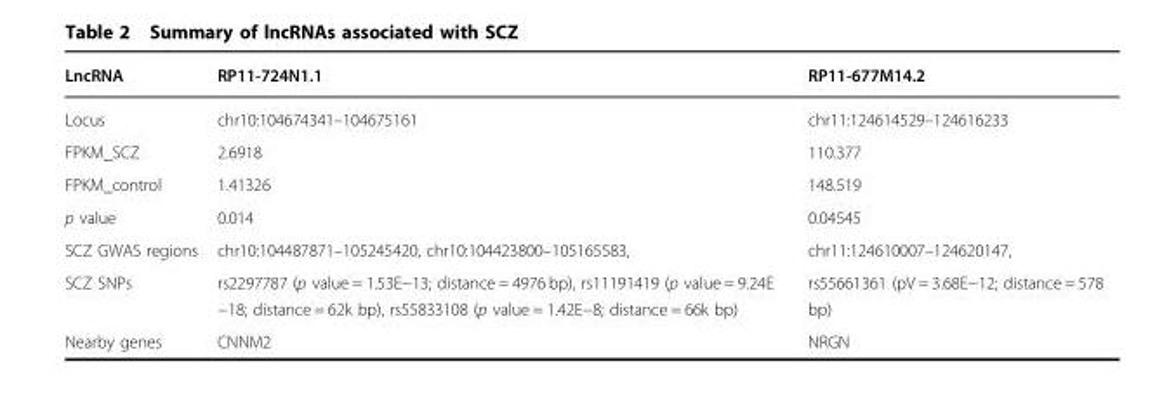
<table><thead><tr><td>LncRNA</td><td>RP11-724N1.1</td><td>RP11-677M14.2</td></tr></thead><tbody><tr><td>Locus</td><td>chr10:104674341–104675161</td><td>chr11:124614529–124616233</td></tr><tr><td>FPKM_SCZ</td><td>2.6918</td><td>110.377</td></tr><tr><td>FPKM_control</td><td>1.41326</td><td>148.519</td></tr><tr><td>p value</td><td>0.014</td><td>0.04545</td></tr><tr><td>SCZ GWAS regions</td><td>chr10:104487871–105245420, chr10:104423800–105165583,</td><td>chr11:124610007–124620147,</td></tr><tr><td>SCZ SNPs</td><td>rs2297787 (p value = 1.53E−13; distance = 4976 bp), rs11191419 (p value = 9.24E −18; distance = 62k bp), rs55833108 (p value = 1.42E−8; distance = 66k bp)</td><td>rs55661361 (pV = 3.68E−12; distance = 578 bp)</td></tr><tr><td>Nearby genes</td><td>CNNM2</td><td>NRGN</td></tr></tbody></table>